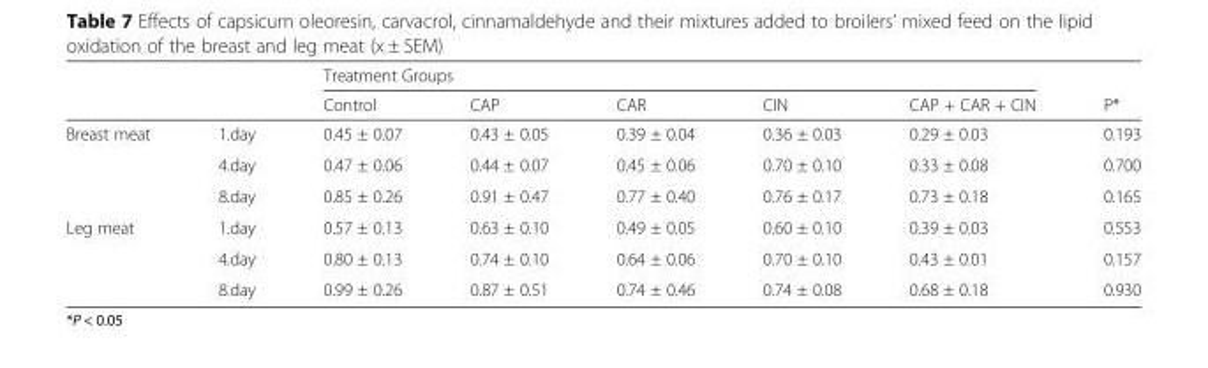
<table><thead><tr><td rowspan="2"></td><td rowspan="2"></td><td colspan="5">Treatment Groups</td><td rowspan="2">P*</td></tr><tr><td>Control</td><td>CAP</td><td>CAR</td><td>CIN</td><td>CAP + CAR + CIN</td></tr></thead><tbody><tr><td rowspan="3">Breast meat</td><td>1.day</td><td>0.45 ± 0.07</td><td>0.43 ± 0.05</td><td>0.39 ± 0.04</td><td>0.36 ± 0.03</td><td>0.29 ± 0.03</td><td>0.193</td></tr><tr><td>4.day</td><td>0.47 ± 0.06</td><td>0.44 ± 0.07</td><td>0.45 ± 0.06</td><td>0.70 ± 0.10</td><td>0.33 ± 0.08</td><td>0.700</td></tr><tr><td>8.day</td><td>0.85 ± 0.26</td><td>0.91 ± 0.47</td><td>0.77 ± 0.40</td><td>0.76 ± 0.17</td><td>0.73 ± 0.18</td><td>0.165</td></tr><tr><td rowspan="3">Leg meat</td><td>1.day</td><td>0.57 ± 0.13</td><td>0.63 ± 0.10</td><td>0.49 ± 0.05</td><td>0.60 ± 0.10</td><td>0.39 ± 0.03</td><td>0.553</td></tr><tr><td>4.day</td><td>0.80 ± 0.13</td><td>0.74 ± 0.10</td><td>0.64 ± 0.06</td><td>0.70 ± 0.10</td><td>0.43 ± 0.01</td><td>0.157</td></tr><tr><td>8.day</td><td>0.99 ± 0.26</td><td>0.87 ± 0.51</td><td>0.74 ± 0.46</td><td>0.74 ± 0.08</td><td>0.68 ± 0.18</td><td>0.930</td></tr></tbody></table>